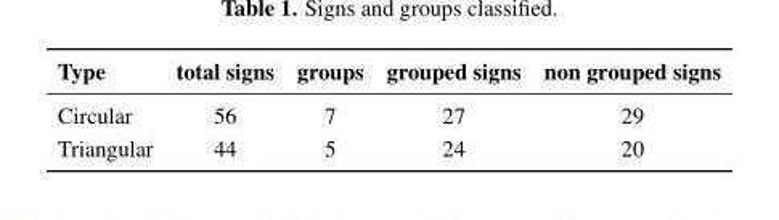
<table><thead><tr><td>Type</td><td>total signs</td><td>groups</td><td>grouped signs</td><td>non grouped signs</td></tr></thead><tbody><tr><td>Circular</td><td>56</td><td>7</td><td>27</td><td>29</td></tr><tr><td>Triangular</td><td>44</td><td>5</td><td>24</td><td>20</td></tr></tbody></table>